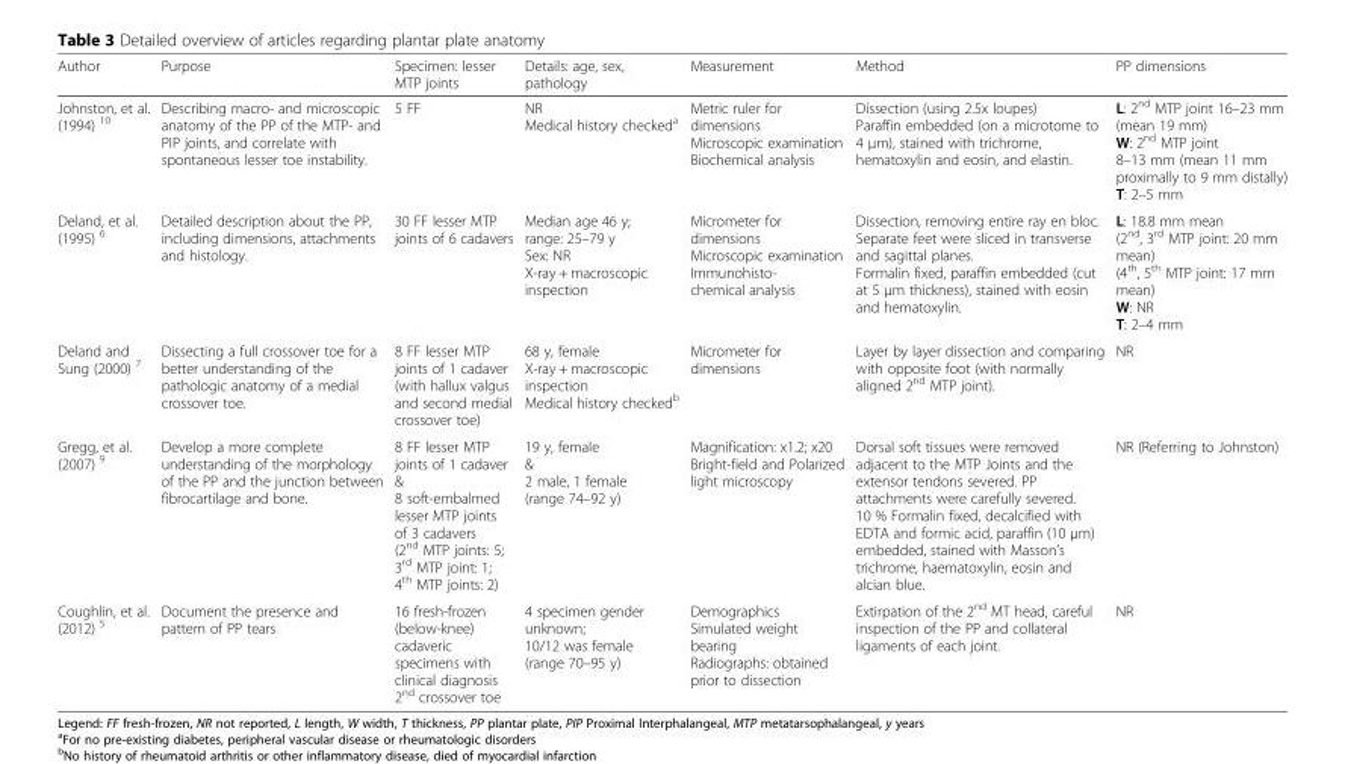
<table><thead><tr><td>Author</td><td>Purpose</td><td>Specimen: lesser MTP joints</td><td>Details: age, sex, pathology</td><td>Measurement</td><td>Method</td><td>PP dimensions</td></tr></thead><tbody><tr><td>Johnston, et al. (1994) <sup>10</sup></td><td>Describing macro- and microscopic anatomy of the PP of the MTP- and PIP joints, and correlate with spontaneous lesser toe instability.</td><td>5 FF</td><td>NR Medical history checked<sup>a</sup></td><td>Metric ruler for dimensions Microscopic examination Biochemical analysis</td><td>Dissection (using 2.5x loupes) Paraffin embedded (on a microtome to 4 μm), stained with trichrome, hematoxylin and eosin, and elastin.</td><td>L: 2<sup>nd</sup> MTP joint 16–23 mm (mean 19 mm) W: 2<sup>nd</sup> MTP joint 8–13 mm (mean 11 mm proximally to 9 mm distally) T: 2–5 mm</td></tr><tr><td>Deland, et al. (1995) <sup>6</sup></td><td>Detailed description about the PP, including dimensions, attachments and histology.</td><td>30 FF lesser MTP joints of 6 cadavers</td><td>Median age 46 y; range: 25–79 y Sex: NR X-ray + macroscopic inspection</td><td>Micrometer for dimensions Microscopic examination Immunohisto- chemical analysis</td><td>Dissection, removing entire ray en bloc. Separate feet were sliced in transverse and sagittal planes. Formalin fixed, paraffin embedded (cut at 5 μm thickness), stained with eosin and hematoxylin.</td><td>L: 18.8 mm mean (2<sup>nd</sup>, 3<sup>rd</sup> MTP joint: 20 mm mean) (4<sup>th</sup>, 5<sup>th</sup> MTP joint: 17 mm mean) W: NR T: 2–4 mm</td></tr><tr><td>Deland and Sung (2000) <sup>7</sup></td><td>Dissecting a full crossover toe for a better understanding of the pathologic anatomy of a medial crossover toe.</td><td>8 FF lesser MTP joints of 1 cadaver (with hallux valgus and second medial crossover toe)</td><td>68 y, female X-ray + macroscopic inspection Medical history checked<sup>b</sup></td><td>Micrometer for dimensions</td><td>Layer by layer dissection and comparing with opposite foot (with normally aligned 2<sup>nd</sup> MTP joint).</td><td>NR</td></tr><tr><td>Gregg, et al. (2007) <sup>9</sup></td><td>Develop a more complete understanding of the morphology of the PP and the junction between fibrocartilage and bone.</td><td>8 FF lesser MTP joints of 1 cadaver &amp; 8 soft-embalmed lesser MTP joints of 3 cadavers (2<sup>nd</sup> MTP joints: 5; 3<sup>rd</sup> MTP joint: 1; 4<sup>th</sup> MTP joints: 2)</td><td>19 y, female &amp; 2 male, 1 female (range 74–92 y)</td><td>Magnification: x1.2; x20 Bright-field and Polarized light microscopy</td><td>Dorsal soft tissues were removed adjacent to the MTP Joints and the extensor tendons severed. PP attachments were carefully severed. 10 % Formalin fixed, decalcified with EDTA and formic acid, paraffin (10 μm) embedded, stained with Masson’s trichrome, haematoxylin, eosin and alcian blue.</td><td>NR (Referring to Johnston)</td></tr><tr><td>Coughlin, et al. (2012) <sup>5</sup></td><td>Document the presence and pattern of PP tears</td><td>16 fresh-frozen (below-knee) cadaveric specimens with clinical diagnosis 2<sup>nd</sup> crossover toe</td><td>4 specimen gender unknown; 10/12 was female (range 70–95 y)</td><td>Demographics Simulated weight bearing Radiographs: obtained prior to dissection</td><td>Extirpation of the 2<sup>nd</sup> MT head, careful inspection of the PP and collateral ligaments of each joint.</td><td>NR</td></tr></tbody></table>